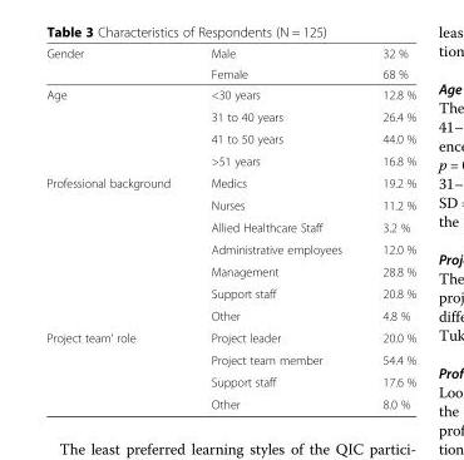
<table><thead><tr><td rowspan="2">Gender</td><td rowspan="2">Male Female</td><td rowspan="2">32 % 68 %</td></tr><tr></tr></thead><tbody><tr><td rowspan="4">Age</td><td>&lt;30 years</td><td>12.8 %</td></tr><tr><td>31 to 40 years</td><td>26.4 %</td></tr><tr><td>41 to 50 years</td><td>44.0 %</td></tr><tr><td>&gt;51 years</td><td>16.8 %</td></tr><tr><td rowspan="7">Professional background</td><td>Medics</td><td>19.2 %</td></tr><tr><td>Nurses</td><td>11.2 %</td></tr><tr><td>Allied Healthcare Staff</td><td>3.2 %</td></tr><tr><td>Administrative employees</td><td>12.0 %</td></tr><tr><td>Management</td><td>28.8 %</td></tr><tr><td>Support staff</td><td>20.8 %</td></tr><tr><td>Other</td><td>4.8 %</td></tr><tr><td rowspan="4">Project team’ role</td><td>Project leader</td><td>20.0 %</td></tr><tr><td>Project team member</td><td>54.4 %</td></tr><tr><td>Support staff</td><td>17.6 %</td></tr><tr><td>Other</td><td>8.0 %</td></tr></tbody></table>